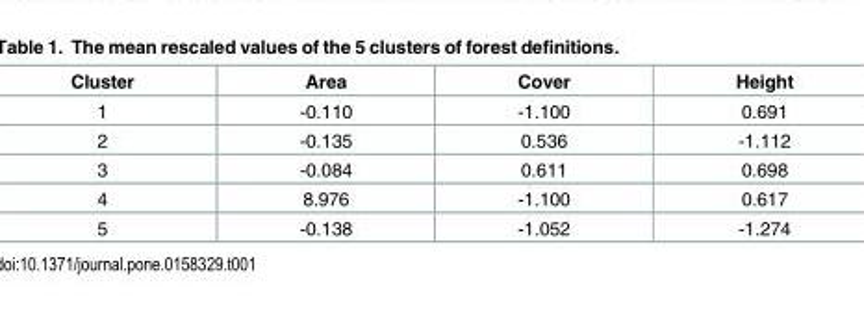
<table><thead><tr><td>Cluster</td><td>Area</td><td>Cover</td><td>Height</td></tr></thead><tbody><tr><td>1</td><td>-0.110</td><td>-1.100</td><td>0.691</td></tr><tr><td>2</td><td>-0.135</td><td>0.536</td><td>-1.112</td></tr><tr><td>3</td><td>-0.084</td><td>0.611</td><td>0.698</td></tr><tr><td>4</td><td>8.976</td><td>-1.100</td><td>0.617</td></tr><tr><td>5</td><td>-0.138</td><td>-1.052</td><td>-1.274</td></tr></tbody></table>